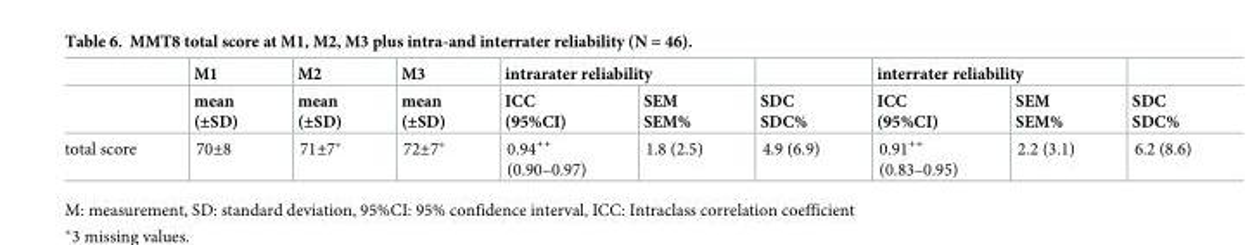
<table><thead><tr><td rowspan="2"></td><td rowspan="2">M1 mean (±SD)</td><td rowspan="2">M2 mean (±SD)</td><td rowspan="2">M3 mean (±SD)</td><td colspan="2">intrarater reliability</td><td rowspan="2">SDC SDC%</td><td colspan="2">interrater reliability</td><td rowspan="2">SDC SDC%</td></tr><tr><td>ICC (95%CI)</td><td>SEM SEM%</td><td>ICC (95%CI)</td><td>SEM SEM%</td></tr></thead><tbody><tr><td>total score</td><td>70±8</td><td>71±7*</td><td>72±7*</td><td>0.94<sup>++</sup> (0.90–0.97)</td><td>1.8 (2.5)</td><td>4.9 (6.9)</td><td>0.91<sup>++</sup> (0.83–0.95)</td><td>2.2 (3.1)</td><td>6.2 (8.6)</td></tr></tbody></table>